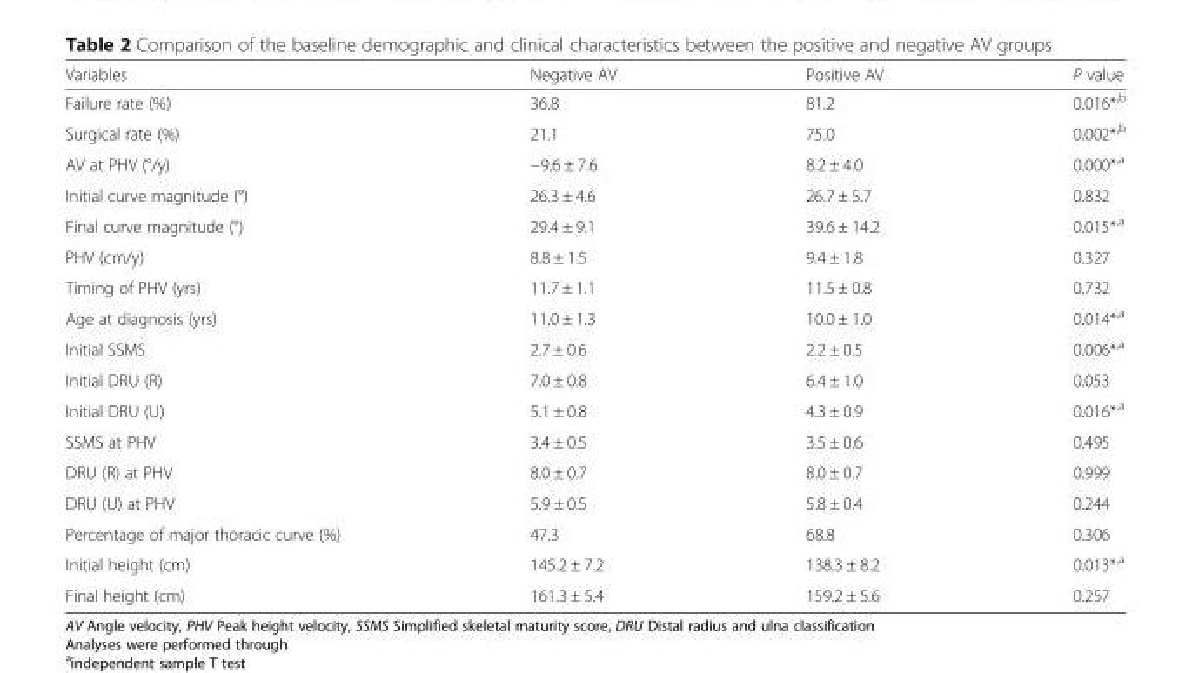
<table><thead><tr><td>Variables</td><td>Negative AV</td><td>Positive AV</td><td>P value</td></tr></thead><tbody><tr><td>Failure rate (%)</td><td>36.8</td><td>81.2</td><td>0.016*<sup>,b</sup></td></tr><tr><td>Surgical rate (%)</td><td>21.1</td><td>75.0</td><td>0.002*<sup>,b</sup></td></tr><tr><td>AV at PHV (°/y)</td><td>−9.6 ± 7.6</td><td>8.2 ± 4.0</td><td>0.000*<sup>,a</sup></td></tr><tr><td>Initial curve magnitude (°)</td><td>26.3 ± 4.6</td><td>26.7 ± 5.7</td><td>0.832</td></tr><tr><td>Final curve magnitude (°)</td><td>29.4 ± 9.1</td><td>39.6 ± 14.2</td><td>0.015*<sup>,a</sup></td></tr><tr><td>PHV (cm/y)</td><td>8.8 ± 1.5</td><td>9.4 ± 1.8</td><td>0.327</td></tr><tr><td>Timing of PHV (yrs)</td><td>11.7 ± 1.1</td><td>11.5 ± 0.8</td><td>0.732</td></tr><tr><td>Age at diagnosis (yrs)</td><td>11.0 ± 1.3</td><td>10.0 ± 1.0</td><td>0.014*<sup>,a</sup></td></tr><tr><td>Initial SSMS</td><td>2.7 ± 0.6</td><td>2.2 ± 0.5</td><td>0.006*<sup>,a</sup></td></tr><tr><td>Initial DRU (R)</td><td>7.0 ± 0.8</td><td>6.4 ± 1.0</td><td>0.053</td></tr><tr><td>Initial DRU (U)</td><td>5.1 ± 0.8</td><td>4.3 ± 0.9</td><td>0.016*<sup>,a</sup></td></tr><tr><td>SSMS at PHV</td><td>3.4 ± 0.5</td><td>3.5 ± 0.6</td><td>0.495</td></tr><tr><td>DRU (R) at PHV</td><td>8.0 ± 0.7</td><td>8.0 ± 0.7</td><td>0.999</td></tr><tr><td>DRU (U) at PHV</td><td>5.9 ± 0.5</td><td>5.8 ± 0.4</td><td>0.244</td></tr><tr><td>Percentage of major thoracic curve (%)</td><td>47.3</td><td>68.8</td><td>0.306</td></tr><tr><td>Initial height (cm)</td><td>145.2 ± 7.2</td><td>138.3 ± 8.2</td><td>0.013*<sup>,a</sup></td></tr><tr><td>Final height (cm)</td><td>161.3 ± 5.4</td><td>159.2 ± 5.6</td><td>0.257</td></tr></tbody></table>